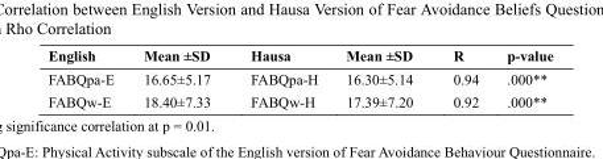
<table><thead><tr><td>English</td><td>Mean ±SD</td><td>Hausa</td><td>Mean ±SD</td><td>R</td><td>p-value</td></tr></thead><tbody><tr><td>FABQpa-E</td><td>16.65±5.17</td><td>FABQpa-H</td><td>16.30±5.14</td><td>0.94</td><td>.000**</td></tr><tr><td>FABQw-E</td><td>18.40±7.33</td><td>FABQw-H</td><td>17.39±7.20</td><td>0.92</td><td>.000**</td></tr></tbody></table>